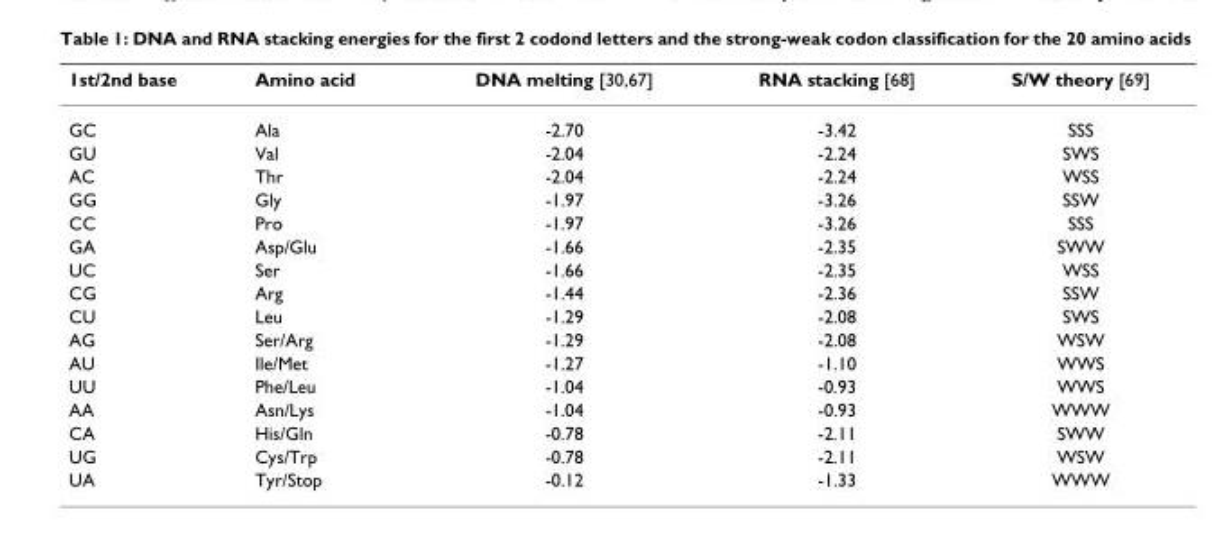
<table><thead><tr><td>1st/2nd base</td><td>Amino acid</td><td>DNA melting [30,67]</td><td>RNA stacking [68]</td><td>S/W theory [69]</td></tr></thead><tbody><tr><td>GC</td><td>Ala</td><td>-2.70</td><td>-3.42</td><td>SSS</td></tr><tr><td>GU</td><td>Val</td><td>-2.04</td><td>-2.24</td><td>SWS</td></tr><tr><td>AC</td><td>Thr</td><td>-2.04</td><td>-2.24</td><td>WSS</td></tr><tr><td>GG</td><td>Gly</td><td>-1.97</td><td>-3.26</td><td>SSW</td></tr><tr><td>CC</td><td>Pro</td><td>-1.97</td><td>-3.26</td><td>SSS</td></tr><tr><td>GA</td><td>Asp/Glu</td><td>-1.66</td><td>-2.35</td><td>SWW</td></tr><tr><td>UC</td><td>Ser</td><td>-1.66</td><td>-2.35</td><td>WSS</td></tr><tr><td>CG</td><td>Arg</td><td>-1.44</td><td>-2.36</td><td>SSW</td></tr><tr><td>CU</td><td>Leu</td><td>-1.29</td><td>-2.08</td><td>SWS</td></tr><tr><td>AG</td><td>Ser/Arg</td><td>-1.29</td><td>-2.08</td><td>WSW</td></tr><tr><td>AU</td><td>Ile/Met</td><td>-1.27</td><td>-1.10</td><td>WWS</td></tr><tr><td>UU</td><td>Phe/Leu</td><td>-1.04</td><td>-0.93</td><td>WWS</td></tr><tr><td>AA</td><td>Asn/Lys</td><td>-1.04</td><td>-0.93</td><td>WWW</td></tr><tr><td>CA</td><td>His/Gln</td><td>-0.78</td><td>-2.11</td><td>SWW</td></tr><tr><td>UG</td><td>Cys/Trp</td><td>-0.78</td><td>-2.11</td><td>WSW</td></tr><tr><td>UA</td><td>Tyr/Stop</td><td>-0.12</td><td>-1.33</td><td>WWW</td></tr></tbody></table>